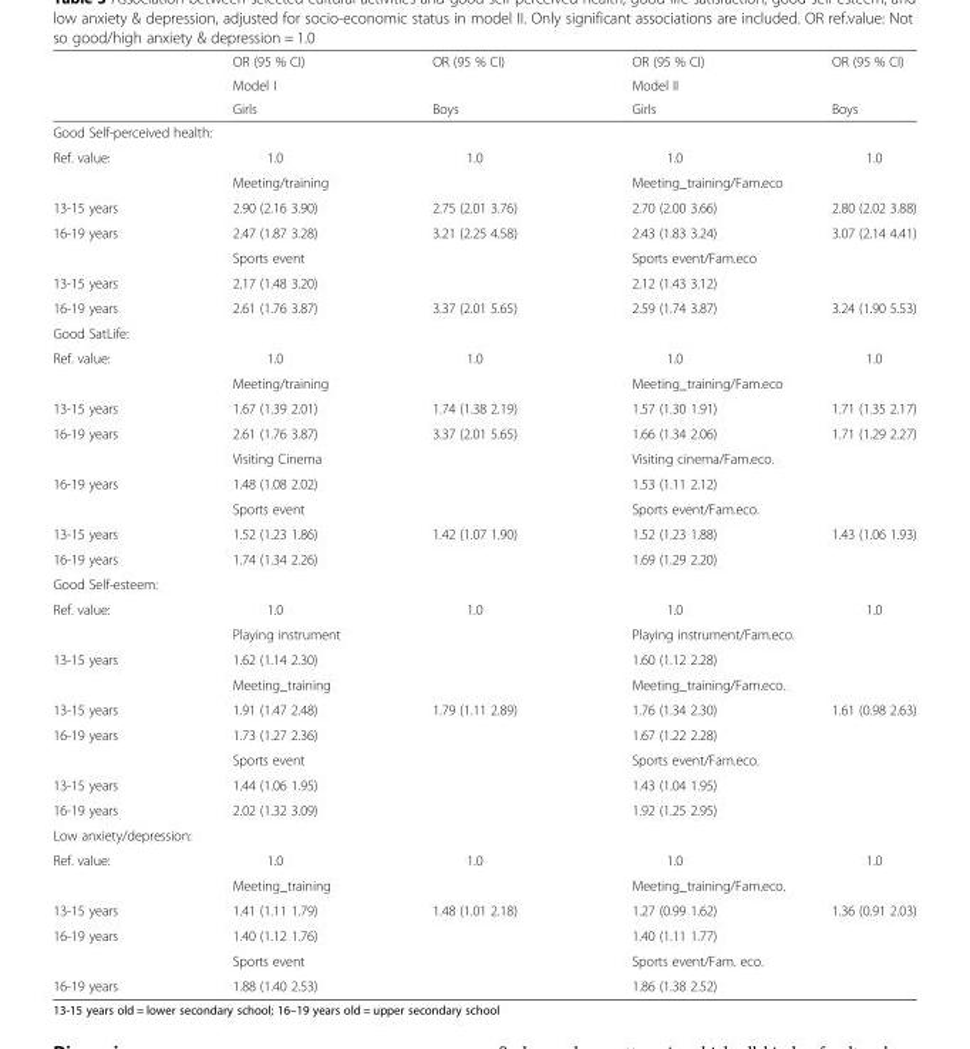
<table><thead><tr><td rowspan="3"></td><td>OR (95 % CI)</td><td>OR (95 % CI)</td><td>OR (95 % CI)</td><td>OR (95 % CI)</td></tr><tr><td colspan="2">Model I</td><td colspan="2">Model II</td></tr><tr><td>Girls</td><td>Boys</td><td>Girls</td><td>Boys</td></tr></thead><tbody><tr><td colspan="5">Good Self-perceived health:</td></tr><tr><td rowspan="2">Ref. value:</td><td>1.0</td><td>1.0</td><td>1.0</td><td>1.0</td></tr><tr><td colspan="2">Meeting/training</td><td colspan="2">Meeting_training/Fam.eco</td></tr><tr><td>13-15 years</td><td>2.90 (2.16 3.90)</td><td>2.75 (2.01 3.76)</td><td>2.70 (2.00 3.66)</td><td>2.80 (2.02 3.88)</td></tr><tr><td rowspan="2">16-19 years</td><td>2.47 (1.87 3.28)</td><td>3.21 (2.25 4.58)</td><td>2.43 (1.83 3.24)</td><td>3.07 (2.14 4.41)</td></tr><tr><td colspan="2">Sports event</td><td colspan="2">Sports event/Fam.eco</td></tr><tr><td>13-15 years</td><td>2.17 (1.48 3.20)</td><td></td><td>2.12 (1.43 3.12)</td><td></td></tr><tr><td>16-19 years</td><td>2.61 (1.76 3.87)</td><td>3.37 (2.01 5.65)</td><td>2.59 (1.74 3.87)</td><td>3.24 (1.90 5.53)</td></tr><tr><td colspan="5">Good SatLife:</td></tr><tr><td rowspan="2">Ref. value:</td><td>1.0</td><td>1.0</td><td>1.0</td><td>1.0</td></tr><tr><td colspan="2">Meeting/training</td><td colspan="2">Meeting_training/Fam.eco</td></tr><tr><td>13-15 years</td><td>1.67 (1.39 2.01)</td><td>1.74 (1.38 2.19)</td><td>1.57 (1.30 1.91)</td><td>1.71 (1.35 2.17)</td></tr><tr><td rowspan="2">16-19 years</td><td>2.61 (1.76 3.87)</td><td>3.37 (2.01 5.65)</td><td>1.66 (1.34 2.06)</td><td>1.71 (1.29 2.27)</td></tr><tr><td colspan="2">Visiting Cinema</td><td colspan="2">Visiting cinema/Fam.eco.</td></tr><tr><td rowspan="2">16-19 years</td><td>1.48 (1.08 2.02)</td><td></td><td>1.53 (1.11 2.12)</td><td></td></tr><tr><td colspan="2">Sports event</td><td colspan="2">Sports event/Fam.eco.</td></tr><tr><td>13-15 years</td><td>1.52 (1.23 1.86)</td><td>1.42 (1.07 1.90)</td><td>1.52 (1.23 1.88)</td><td>1.43 (1.06 1.93)</td></tr><tr><td>16-19 years</td><td>1.74 (1.34 2.26)</td><td></td><td>1.69 (1.29 2.20)</td><td></td></tr><tr><td colspan="5">Good Self-esteem:</td></tr><tr><td rowspan="2">Ref. value:</td><td>1.0</td><td>1.0</td><td>1.0</td><td>1.0</td></tr><tr><td colspan="2">Playing instrument</td><td colspan="2">Playing instrument/Fam.eco.</td></tr><tr><td rowspan="2">13-15 years</td><td>1.62 (1.14 2.30)</td><td></td><td>1.60 (1.12 2.28)</td><td></td></tr><tr><td colspan="2">Meeting_training</td><td colspan="2">Meeting_training/Fam.eco.</td></tr><tr><td>13-15 years</td><td>1.91 (1.47 2.48)</td><td>1.79 (1.11 2.89)</td><td>1.76 (1.34 2.30)</td><td>1.61 (0.98 2.63)</td></tr><tr><td rowspan="2">16-19 years</td><td>1.73 (1.27 2.36)</td><td></td><td>1.67 (1.22 2.28)</td><td></td></tr><tr><td colspan="2">Sports event</td><td colspan="2">Sports event/Fam.eco.</td></tr><tr><td>13-15 years</td><td>1.44 (1.06 1.95)</td><td></td><td>1.43 (1.04 1.95)</td><td></td></tr><tr><td>16-19 years</td><td>2.02 (1.32 3.09)</td><td></td><td>1.92 (1.25 2.95)</td><td></td></tr><tr><td colspan="5">Low anxiety/depression:</td></tr><tr><td rowspan="2">Ref. value:</td><td>1.0</td><td>1.0</td><td>1.0</td><td>1.0</td></tr><tr><td colspan="2">Meeting_training</td><td colspan="2">Meeting_training/Fam.eco.</td></tr><tr><td>13-15 years</td><td>1.41 (1.11 1.79)</td><td>1.48 (1.01 2.18)</td><td>1.27 (0.99 1.62)</td><td>1.36 (0.91 2.03)</td></tr><tr><td rowspan="2">16-19 years</td><td>1.40 (1.12 1.76)</td><td></td><td>1.40 (1.11 1.77)</td><td></td></tr><tr><td colspan="2">Sports event</td><td colspan="2">Sports event/Fam. eco.</td></tr><tr><td>16-19 years</td><td>1.88 (1.40 2.53)</td><td></td><td>1.86 (1.38 2.52)</td><td></td></tr></tbody></table>